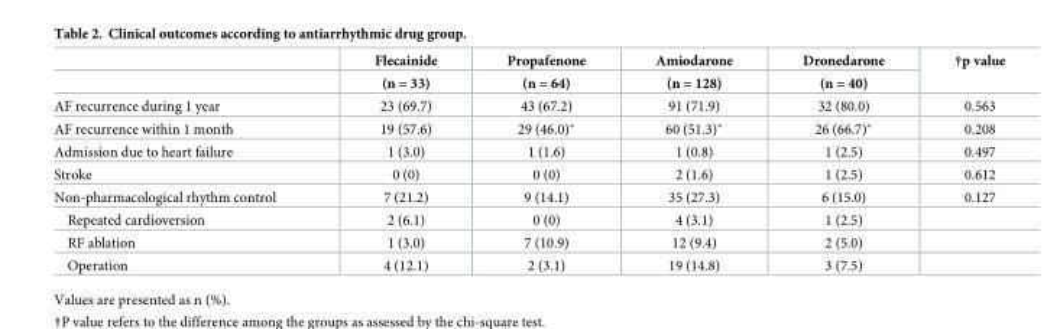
<table><thead><tr><td rowspan="2"></td><td rowspan="2">Flecainide (n = 33)</td><td rowspan="2">Propafenone (n = 64)</td><td rowspan="2">Amiodarone (n = 128)</td><td rowspan="2">Dronedarone (n = 40)</td><td rowspan="2">†p value</td></tr><tr></tr></thead><tbody><tr><td>AF recurrence during 1 year</td><td>23 (69.7)</td><td>43 (67.2)</td><td>91 (71.9)</td><td>32 (80.0)</td><td>0.563</td></tr><tr><td>AF recurrence within 1 month</td><td>19 (57.6)</td><td>29 (46.0)*</td><td>60 (51.3)*</td><td>26 (66.7)*</td><td>0.208</td></tr><tr><td>Admission due to heart failure</td><td>1 (3.0)</td><td>1 (1.6)</td><td>1 (0.8)</td><td>1 (2.5)</td><td>0.497</td></tr><tr><td>Stroke</td><td>0 (0)</td><td>0 (0)</td><td>2 (1.6)</td><td>1 (2.5)</td><td>0.612</td></tr><tr><td>Non-pharmacological rhythm control</td><td>7 (21.2)</td><td>9 (14.1)</td><td>35 (27.3)</td><td>6 (15.0)</td><td>0.127</td></tr><tr><td>Repeated cardioversion</td><td>2 (6.1)</td><td>0 (0)</td><td>4 (3.1)</td><td>1 (2.5)</td><td></td></tr><tr><td>RF ablation</td><td>1 (3.0)</td><td>7 (10.9)</td><td>12 (9.4)</td><td>2 (5.0)</td><td></td></tr><tr><td>Operation</td><td>4 (12.1)</td><td>2 (3.1)</td><td>19 (14.8)</td><td>3 (7.5)</td><td></td></tr></tbody></table>